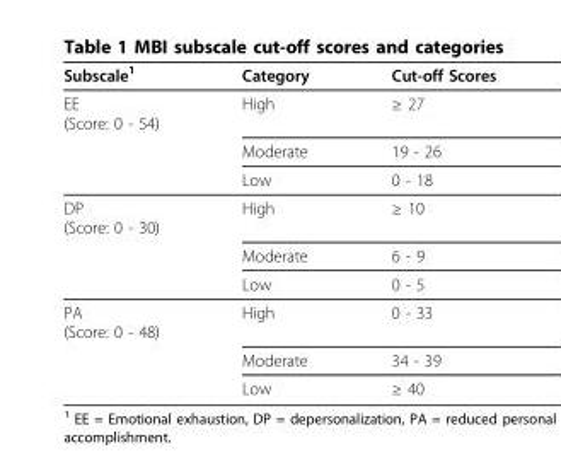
<table><thead><tr><td>Subscale<sup>1</sup></td><td>Category</td><td>Cut-off Scores</td></tr></thead><tbody><tr><td rowspan="3">EE (Score: 0 - 54)</td><td>High</td><td>≥ 27</td></tr><tr><td>Moderate</td><td>19 - 26</td></tr><tr><td>Low</td><td>0 - 18</td></tr><tr><td rowspan="3">DP (Score: 0 - 30)</td><td>High</td><td>≥ 10</td></tr><tr><td>Moderate</td><td>6 - 9</td></tr><tr><td>Low</td><td>0 - 5</td></tr><tr><td rowspan="3">PA (Score: 0 - 48)</td><td>High</td><td>0 - 33</td></tr><tr><td>Moderate</td><td>34 - 39</td></tr><tr><td>Low</td><td>≥ 40</td></tr></tbody></table>